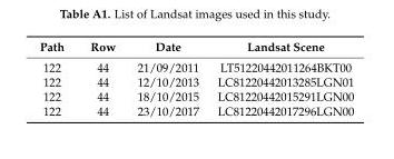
<table><thead><tr><td>Path</td><td>Row</td><td>Date</td><td>Landsat Scene</td></tr></thead><tbody><tr><td>122</td><td>44</td><td>21/09/2011</td><td>LT51220442011264BKT00</td></tr><tr><td>122</td><td>44</td><td>12/10/2013</td><td>LC81220442013285LGN01</td></tr><tr><td>122</td><td>44</td><td>18/10/2015</td><td>LC81220442015291LGN00</td></tr><tr><td>122</td><td>44</td><td>23/10/2017</td><td>LC81220442017296LGN00</td></tr></tbody></table>